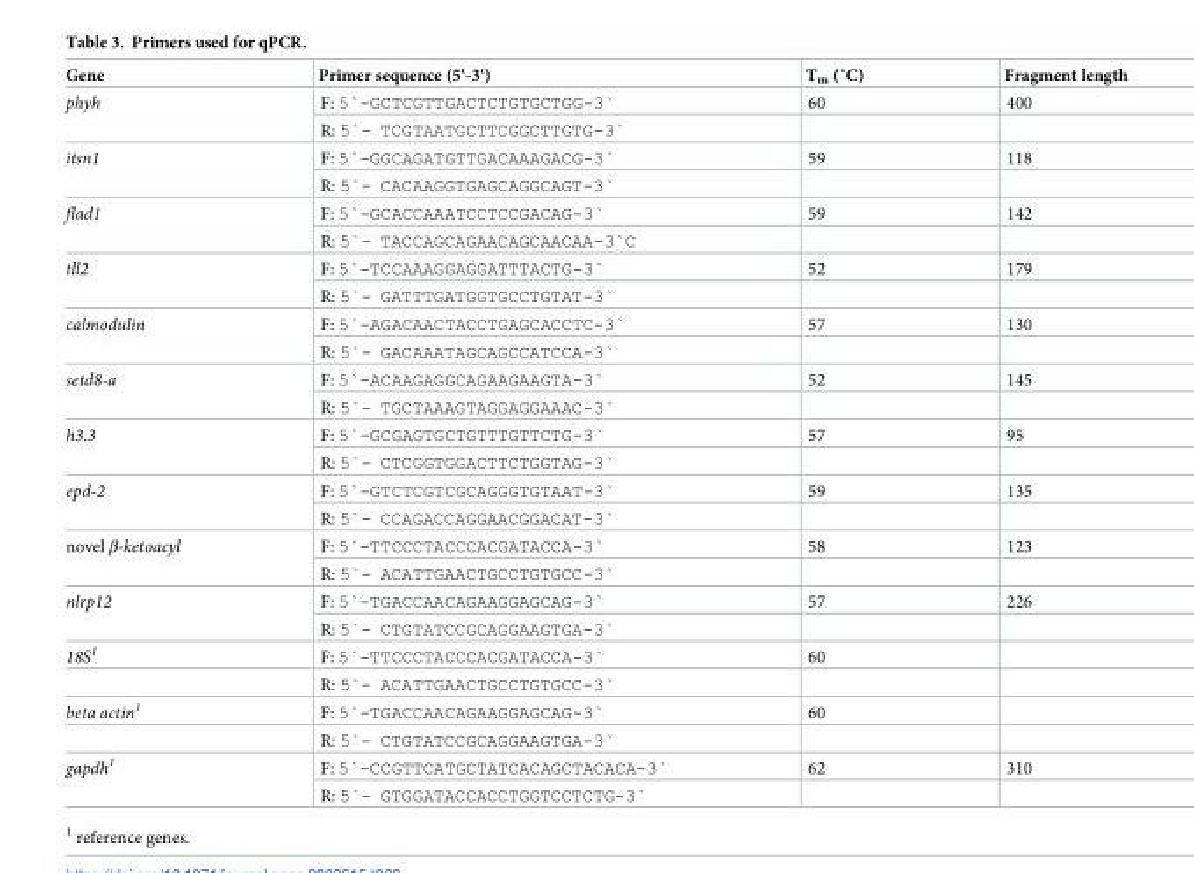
<table><thead><tr><td>Gene</td><td>Primer sequence (5‘-3‘)</td><td>Tm (˚C)</td><td>Fragment length</td></tr></thead><tbody><tr><td rowspan="2">phyh</td><td>F: 5`-GCTCGTTGACTCTGTGCTGG-3`</td><td>60</td><td>400</td></tr><tr><td>R: 5`- TCGTAATGCTTCGGCTTGTG-3`</td><td></td><td></td></tr><tr><td rowspan="2">itsn1</td><td>F: 5`-GGCAGATGTTGACAAAGACG-3`</td><td>59</td><td>118</td></tr><tr><td>R: 5`- CACAAGGTGAGCAGGCAGT-3`</td><td></td><td></td></tr><tr><td rowspan="2">flad1</td><td>F: 5`-GCACCAAATCCTCCGACAG-3`</td><td>59</td><td>142</td></tr><tr><td>R: 5`- TACCAGCAGAACAGCAACAA-3`C</td><td></td><td></td></tr><tr><td rowspan="2">tll2</td><td>F: 5`-TCCAAAGGAGGATTTACTG-3`</td><td>52</td><td>179</td></tr><tr><td>R: 5`- GATTTGATGGTGCCTGTAT-3`</td><td></td><td></td></tr><tr><td rowspan="2">calmodulin</td><td>F: 5`-AGACAACTACCTGAGCACCTC-3`</td><td>57</td><td>130</td></tr><tr><td>R: 5`- GACAAATAGCAGCCATCCA-3`</td><td></td><td></td></tr><tr><td rowspan="2">setd8-a</td><td>F: 5`-ACAAGAGGCAGAAGAAGTA-3`</td><td>52</td><td>145</td></tr><tr><td>R: 5`- TGCTAAAGTAGGAGGAAAC-3`</td><td></td><td></td></tr><tr><td rowspan="2">h3.3</td><td>F: 5`-GCGAGTGCTGTTTGTTCTG-3`</td><td>57</td><td>95</td></tr><tr><td>R: 5`- CTCGGTGGACTTCTGGTAG-3`</td><td></td><td></td></tr><tr><td rowspan="2">epd-2</td><td>F: 5`-GTCTCGTCGCAGGGTGTAAT-3`</td><td>59</td><td>135</td></tr><tr><td>R: 5`- CCAGACCAGGAACGGACAT-3`</td><td></td><td></td></tr><tr><td rowspan="2">novel β-ketoacyl</td><td>F: 5`-TTCCCTACCCACGATACCA-3`</td><td>58</td><td>123</td></tr><tr><td>R: 5`- ACATTGAACTGCCTGTGCC-3`</td><td></td><td></td></tr><tr><td rowspan="2">nlrp12</td><td>F: 5`-TGACCAACAGAAGGAGCAG-3`</td><td>57</td><td>226</td></tr><tr><td>R: 5`- CTGTATCCGCAGGAAGTGA-3`</td><td></td><td></td></tr><tr><td rowspan="2">18S<sup>1</sup></td><td>F: 5`-TTCCCTACCCACGATACCA-3`</td><td>60</td><td></td></tr><tr><td>R: 5`- ACATTGAACTGCCTGTGCC-3`</td><td></td><td></td></tr><tr><td rowspan="2">beta actin<sup>1</sup></td><td>F: 5`-TGACCAACAGAAGGAGCAG-3`</td><td>60</td><td></td></tr><tr><td>R: 5`- CTGTATCCGCAGGAAGTGA-3`</td><td></td><td></td></tr><tr><td rowspan="2">gapdh<sup>1</sup></td><td>F: 5`-CCGTTCATGCTATCACAGCTACACA-3`</td><td>62</td><td>310</td></tr><tr><td>R: 5`- GTGGATACCACCTGGTCCTCTG-3`</td><td></td><td></td></tr></tbody></table>